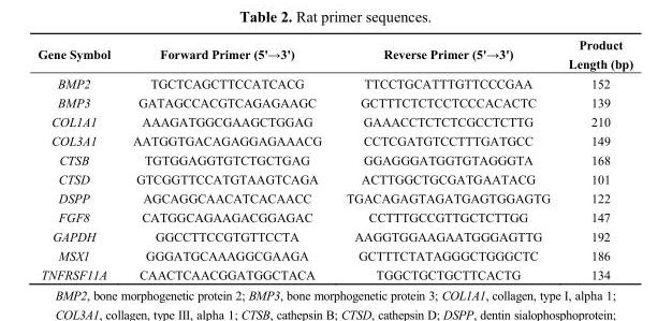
<table><thead><tr><td>Gene Symbol</td><td>Forward Primer (5&#x27;→3&#x27;)</td><td>Reverse Primer (5&#x27;→3&#x27;)</td><td>Product Length (bp)</td></tr></thead><tbody><tr><td>BMP2</td><td>TGCTCAGCTTCCATCACG</td><td>TTCCTGCATTTGTTCCCGAA</td><td>152</td></tr><tr><td>BMP3</td><td>GATAGCCACGTCAGAGAAGC</td><td>GCTTTCTCTCCTCCCACACTC</td><td>139</td></tr><tr><td>COL1A1</td><td>AAAGATGGCGAAGCTGGAG</td><td>GAAACCTCTCTCGCCTCTTG</td><td>210</td></tr><tr><td>COL3A1</td><td>AATGGTGACAGAGGAGAAACG</td><td>CCTCGATGTCCTTTGATGCC</td><td>149</td></tr><tr><td>CTSB</td><td>TGTGGAGGTGTCTGCTGAG</td><td>GGAGGGATGGTGTAGGGTA</td><td>168</td></tr><tr><td>CTSD</td><td>GTCGGTTCCATGTAAGTCAGA</td><td>ACTTGGCTGCGATGAATACG</td><td>101</td></tr><tr><td>DSPP</td><td>AGCAGGCAACATCACAACC</td><td>TGACAGAGTAGATGAGTGGAGTG</td><td>122</td></tr><tr><td>FGF8</td><td>CATGGCAGAAGACGGAGAC</td><td>CCTTTGCCGTTGCTCTTGG</td><td>147</td></tr><tr><td>GAPDH</td><td>GGCCTTCCGTGTTCCTA</td><td>AAGGTGGAAGAATGGGAGTTG</td><td>192</td></tr><tr><td>MSX1</td><td>GGGATGCAAAGGCGAAGA</td><td>GCTTTCTATAGGGCTGGGCTC</td><td>186</td></tr><tr><td>TNFRSF11A</td><td>CAACTCAACGGATGGCTACA</td><td>TGGCTGCTGCTTCACTG</td><td>134</td></tr></tbody></table>